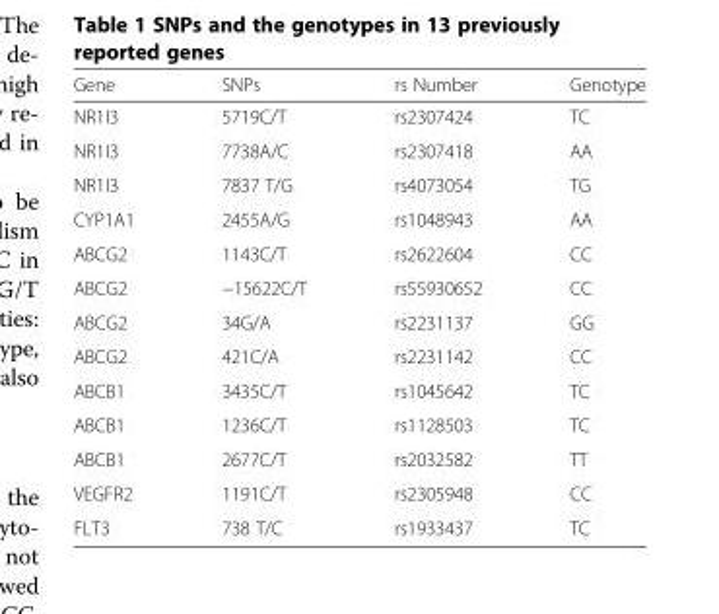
<table><thead><tr><td>Gene</td><td>SNPs</td><td>rs Number</td><td>Genotype</td></tr></thead><tbody><tr><td>NR1I3</td><td>5719C/T</td><td>rs2307424</td><td>TC</td></tr><tr><td>NR1I3</td><td>7738A/C</td><td>rs2307418</td><td>AA</td></tr><tr><td>NR1I3</td><td>7837 T/G</td><td>rs4073054</td><td>TG</td></tr><tr><td>CYP1A1</td><td>2455A/G</td><td>rs1048943</td><td>AA</td></tr><tr><td>ABCG2</td><td>1143C/T</td><td>rs2622604</td><td>CC</td></tr><tr><td>ABCG2</td><td>−15622C/T</td><td>rs55930652</td><td>CC</td></tr><tr><td>ABCG2</td><td>34G/A</td><td>rs2231137</td><td>GG</td></tr><tr><td>ABCG2</td><td>421C/A</td><td>rs2231142</td><td>CC</td></tr><tr><td>ABCB1</td><td>3435C/T</td><td>rs1045642</td><td>TC</td></tr><tr><td>ABCB1</td><td>1236C/T</td><td>rs1128503</td><td>TC</td></tr><tr><td>ABCB1</td><td>2677C/T</td><td>rs2032582</td><td>TT</td></tr><tr><td>VEGFR2</td><td>1191C/T</td><td>rs2305948</td><td>CC</td></tr><tr><td>FLT3</td><td>738 T/C</td><td>rs1933437</td><td>TC</td></tr></tbody></table>